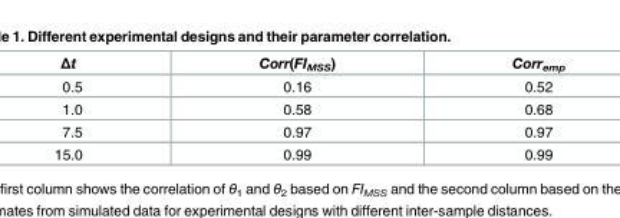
<table><thead><tr><td>Δt</td><td>Corr(FI<sub>MSS</sub>)</td><td>Corr<sub>emp</sub></td></tr></thead><tbody><tr><td>0.5</td><td>0.16</td><td>0.52</td></tr><tr><td>1.0</td><td>0.58</td><td>0.68</td></tr><tr><td>7.5</td><td>0.97</td><td>0.97</td></tr><tr><td>15.0</td><td>0.99</td><td>0.99</td></tr></tbody></table>